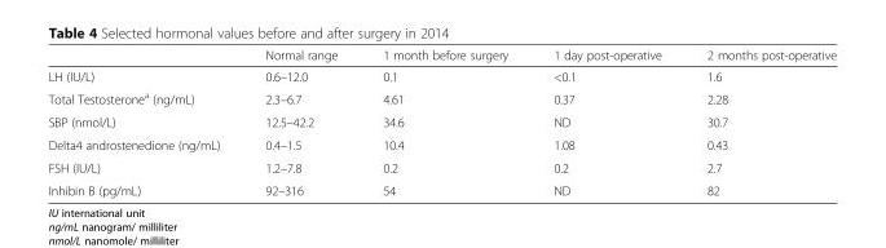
<table><thead><tr><td></td><td>Normal range</td><td>1 month before surgery</td><td>1 day post-operative</td><td>2 months post-operative</td></tr></thead><tbody><tr><td>LH (IU/L)</td><td>0.6–12.0</td><td>0.1</td><td>&lt;0.1</td><td>1.6</td></tr><tr><td>Total Testosterone<sup>a</sup> (ng/mL)</td><td>2.3–6.7</td><td>4.61</td><td>0.37</td><td>2.28</td></tr><tr><td>SBP (nmol/L)</td><td>12.5–42.2</td><td>34.6</td><td>ND</td><td>30.7</td></tr><tr><td>Delta4 androstenedione (ng/mL)</td><td>0.4–1.5</td><td>10.4</td><td>1.08</td><td>0.43</td></tr><tr><td>FSH (IU/L)</td><td>1.2–7.8</td><td>0.2</td><td>0.2</td><td>2.7</td></tr><tr><td>Inhibin B (pg/mL)</td><td>92–316</td><td>54</td><td>ND</td><td>82</td></tr></tbody></table>